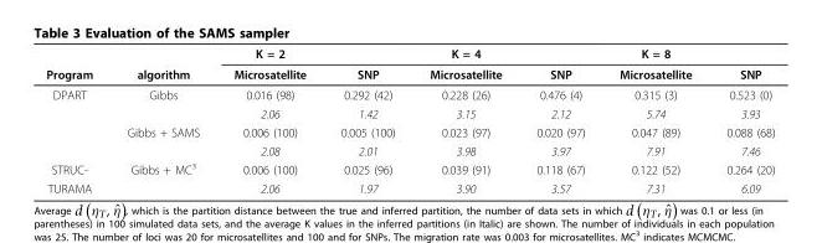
<table><thead><tr><td rowspan="2">Program</td><td rowspan="2">algorithm</td><td rowspan="2">K = 2 Microsatellite</td><td rowspan="2">SNP</td><td rowspan="2">K = 4 Microsatellite</td><td rowspan="2">SNP</td><td rowspan="2">K = 8 Microsatellite</td><td rowspan="2">SNP</td></tr><tr></tr></thead><tbody><tr><td rowspan="4">DPART</td><td>Gibbs</td><td>0.016 (98)</td><td>0.292 (42)</td><td>0.228 (26)</td><td>0.476 (4)</td><td>0.315 (3)</td><td>0.523 (0)</td></tr><tr><td></td><td>2.06</td><td>1.42</td><td>3.15</td><td>2.12</td><td>5.74</td><td>3.93</td></tr><tr><td>Gibbs + SAMS</td><td>0.006 (100)</td><td>0.005 (100)</td><td>0.023 (97)</td><td>0.020 (97)</td><td>0.047 (89)</td><td>0.088 (68)</td></tr><tr><td></td><td>2.08</td><td>2.01</td><td>3.98</td><td>3.97</td><td>7.91</td><td>7.46</td></tr><tr><td>STRUC-</td><td>Gibbs + MC<sup>3</sup></td><td>0.006 (100)</td><td>0.025 (96)</td><td>0.039 (91)</td><td>0.118 (67)</td><td>0.122 (52)</td><td>0.264 (20)</td></tr><tr><td>TURAMA</td><td></td><td>2.06</td><td>1.97</td><td>3.90</td><td>3.57</td><td>7.31</td><td>6.09</td></tr></tbody></table>